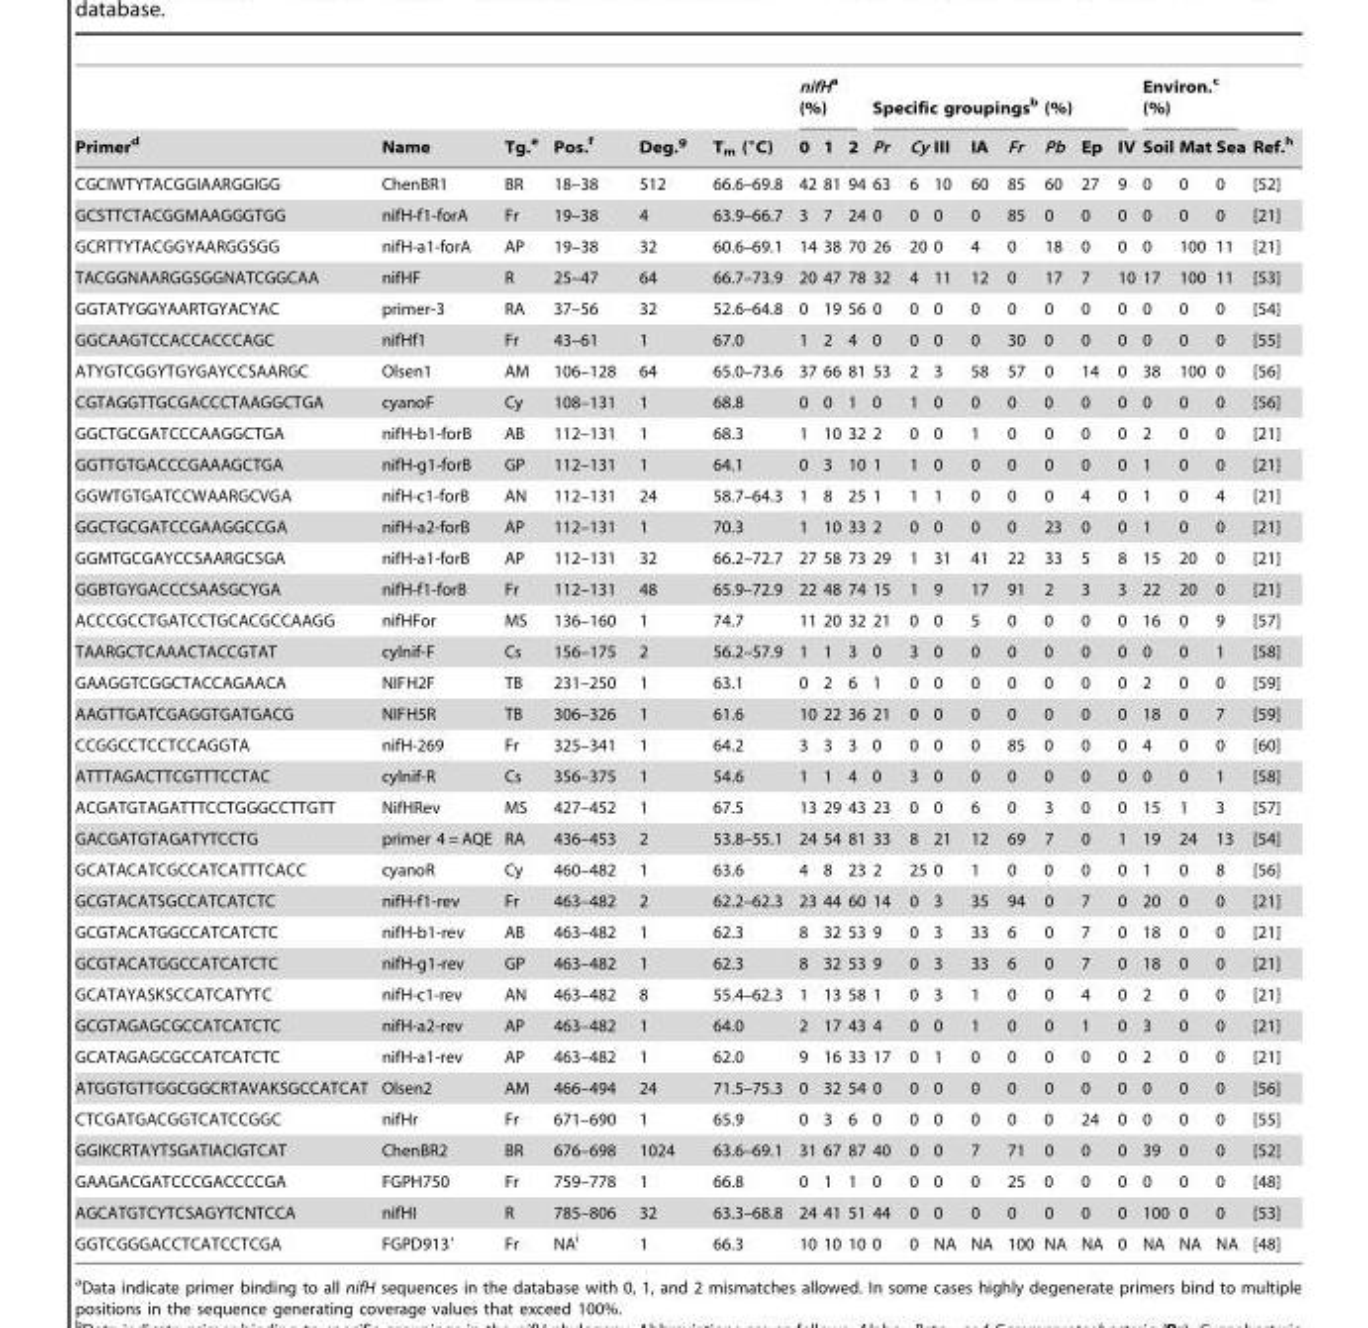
<table><thead><tr><td rowspan="2">Primer<sup>d</sup></td><td rowspan="2">Name</td><td rowspan="2">Tg.<sup>e</sup></td><td rowspan="2">Pos.<sup>f</sup></td><td rowspan="2">Deg.<sup>g</sup></td><td rowspan="2">T<sub>m</sub> (°C)</td><td colspan="3">nifHa (%)</td><td colspan="8">Specific groupings<sup>b</sup> (%)</td><td colspan="3">Environ.<sup>c</sup> (%)</td><td rowspan="2">Ref.<sup>h</sup></td></tr><tr><td>0</td><td>1</td><td>2</td><td>Pr</td><td>Cy</td><td>III</td><td>IA</td><td>Fr</td><td>Pb</td><td>Ep</td><td>IV</td><td>Soil</td><td>Mat</td><td>Sea</td></tr></thead><tbody><tr><td>CGCIWTYTACGGIAARGGIGG</td><td>ChenBR1</td><td>BR</td><td>18–38</td><td>512</td><td>66.6–69.8</td><td>42</td><td>81</td><td>94</td><td>63</td><td>6</td><td>10</td><td>60</td><td>85</td><td>60</td><td>27</td><td>9</td><td>0</td><td>0</td><td>0</td><td>[52]</td></tr><tr><td>GCSTTCTACGGMAAGGGTGG</td><td>nifH-f1-forA</td><td>Fr</td><td>19–38</td><td>4</td><td>63.9–66.7</td><td>3</td><td>7</td><td>24</td><td>0</td><td>0</td><td>0</td><td>0</td><td>85</td><td>0</td><td>0</td><td>0</td><td>0</td><td>0</td><td>0</td><td>[21]</td></tr><tr><td>GCRTTYTACGGYAARGGSGG</td><td>nifH-a1-forA</td><td>AP</td><td>19–38</td><td>32</td><td>60.6–69.1</td><td>14</td><td>38</td><td>70</td><td>26</td><td>20</td><td>0</td><td>4</td><td>0</td><td>18</td><td>0</td><td>0</td><td>0</td><td>100</td><td>11</td><td>[21]</td></tr><tr><td>TACGGNAARGGSGGNATCGGCAA</td><td>nifHF</td><td>R</td><td>25–47</td><td>64</td><td>66.7–73.9</td><td>20</td><td>47</td><td>78</td><td>32</td><td>4</td><td>11</td><td>12</td><td>0</td><td>17</td><td>7</td><td>10</td><td>17</td><td>100</td><td>11</td><td>[53]</td></tr><tr><td>GGTATYGGYAARTGYACYAC</td><td>primer-3</td><td>RA</td><td>37–56</td><td>32</td><td>52.6–64.8</td><td>0</td><td>19</td><td>56</td><td>0</td><td>0</td><td>0</td><td>0</td><td>0</td><td>0</td><td>0</td><td>0</td><td>0</td><td>0</td><td>0</td><td>[54]</td></tr><tr><td>GGCAAGTCCACCACCCAGC</td><td>nifHf1</td><td>Fr</td><td>43–61</td><td>1</td><td>67.0</td><td>1</td><td>2</td><td>4</td><td>0</td><td>0</td><td>0</td><td>0</td><td>30</td><td>0</td><td>0</td><td>0</td><td>0</td><td>0</td><td>0</td><td>[55]</td></tr><tr><td>ATYGTCGGYTGYGAYCCSAARGC</td><td>Olsen1</td><td>AM</td><td>106–128</td><td>64</td><td>65.0–73.6</td><td>37</td><td>66</td><td>81</td><td>53</td><td>2</td><td>3</td><td>58</td><td>57</td><td>0</td><td>14</td><td>0</td><td>38</td><td>100</td><td>0</td><td>[56]</td></tr><tr><td>CGTAGGTTGCGACCCTAAGGCTGA</td><td>cyanoF</td><td>Cy</td><td>108–131</td><td>1</td><td>68.8</td><td>0</td><td>0</td><td>1</td><td>0</td><td>1</td><td>0</td><td>0</td><td>0</td><td>0</td><td>0</td><td>0</td><td>0</td><td>0</td><td>0</td><td>[56]</td></tr><tr><td>GGCTGCGATCCCAAGGCTGA</td><td>nifH-b1-forB</td><td>AB</td><td>112–131</td><td>1</td><td>68.3</td><td>1</td><td>10</td><td>32</td><td>2</td><td>0</td><td>0</td><td>1</td><td>0</td><td>0</td><td>0</td><td>0</td><td>2</td><td>0</td><td>0</td><td>[21]</td></tr><tr><td>GGTTGTGACCCGAAAGCTGA</td><td>nifH-g1-forB</td><td>GP</td><td>112–131</td><td>1</td><td>64.1</td><td>0</td><td>3</td><td>10</td><td>1</td><td>1</td><td>0</td><td>0</td><td>0</td><td>0</td><td>0</td><td>0</td><td>1</td><td>0</td><td>0</td><td>[21]</td></tr><tr><td>GGWTGTGATCCWAARGCVGA</td><td>nifH-c1-forB</td><td>AN</td><td>112–131</td><td>24</td><td>58.7–64.3</td><td>1</td><td>8</td><td>25</td><td>1</td><td>1</td><td>1</td><td>0</td><td>0</td><td>0</td><td>4</td><td>0</td><td>1</td><td>0</td><td>4</td><td>[21]</td></tr><tr><td>GGCTGCGATCCGAAGGCCGA</td><td>nifH-a2-forB</td><td>AP</td><td>112–131</td><td>1</td><td>70.3</td><td>1</td><td>10</td><td>33</td><td>2</td><td>0</td><td>0</td><td>0</td><td>0</td><td>23</td><td>0</td><td>0</td><td>1</td><td>0</td><td>0</td><td>[21]</td></tr><tr><td>GGMTGCGAYCCSAARGCSGA</td><td>nifH-a1-forB</td><td>AP</td><td>112–131</td><td>32</td><td>66.2–72.7</td><td>27</td><td>58</td><td>73</td><td>29</td><td>1</td><td>31</td><td>41</td><td>22</td><td>33</td><td>5</td><td>8</td><td>15</td><td>20</td><td>0</td><td>[21]</td></tr><tr><td>GGBTGYGACCCSAASGCYGA</td><td>nifH-f1-forB</td><td>Fr</td><td>112–131</td><td>48</td><td>65.9–72.9</td><td>22</td><td>48</td><td>74</td><td>15</td><td>1</td><td>9</td><td>17</td><td>91</td><td>2</td><td>3</td><td>3</td><td>22</td><td>20</td><td>0</td><td>[21]</td></tr><tr><td>ACCCGCCTGATCCTGCACGCCAAGG</td><td>nifHFor</td><td>MS</td><td>136–160</td><td>1</td><td>74.7</td><td>11</td><td>20</td><td>32</td><td>21</td><td>0</td><td>0</td><td>5</td><td>0</td><td>0</td><td>0</td><td>0</td><td>16</td><td>0</td><td>9</td><td>[57]</td></tr><tr><td>TAARGCTCAAACTACCGTAT</td><td>cylnif-F</td><td>Cs</td><td>156–175</td><td>2</td><td>56.2–57.9</td><td>1</td><td>1</td><td>3</td><td>0</td><td>3</td><td>0</td><td>0</td><td>0</td><td>0</td><td>0</td><td>0</td><td>0</td><td>0</td><td>1</td><td>[58]</td></tr><tr><td>GAAGGTCGGCTACCAGAACA</td><td>NIFH2F</td><td>TB</td><td>231–250</td><td>1</td><td>63.1</td><td>0</td><td>2</td><td>6</td><td>1</td><td>0</td><td>0</td><td>0</td><td>0</td><td>0</td><td>0</td><td>0</td><td>2</td><td>0</td><td>0</td><td>[59]</td></tr><tr><td>AAGTTGATCGAGGTGATGACG</td><td>NIFH5R</td><td>TB</td><td>306–326</td><td>1</td><td>61.6</td><td>10</td><td>22</td><td>36</td><td>21</td><td>0</td><td>0</td><td>0</td><td>0</td><td>0</td><td>0</td><td>0</td><td>18</td><td>0</td><td>7</td><td>[59]</td></tr><tr><td>CCGGCCTCCTCCAGGTA</td><td>nifH-269</td><td>Fr</td><td>325–341</td><td>1</td><td>64.2</td><td>3</td><td>3</td><td>3</td><td>0</td><td>0</td><td>0</td><td>0</td><td>85</td><td>0</td><td>0</td><td>0</td><td>4</td><td>0</td><td>0</td><td>[60]</td></tr><tr><td>ATTTAGACTTCGTTTCCTAC</td><td>cylnif-R</td><td>Cs</td><td>356–375</td><td>1</td><td>54.6</td><td>1</td><td>1</td><td>4</td><td>0</td><td>3</td><td>0</td><td>0</td><td>0</td><td>0</td><td>0</td><td>0</td><td>0</td><td>0</td><td>1</td><td>[58]</td></tr><tr><td>ACGATGTAGATTTCCTGGGCCTTGTT</td><td>NifHRev</td><td>MS</td><td>427–452</td><td>1</td><td>67.5</td><td>13</td><td>29</td><td>43</td><td>23</td><td>0</td><td>0</td><td>6</td><td>0</td><td>3</td><td>0</td><td>0</td><td>15</td><td>1</td><td>3</td><td>[57]</td></tr><tr><td>GACGATGTAGATYTCCTG</td><td>primer 4 = AQE</td><td>RA</td><td>436–453</td><td>2</td><td>53.8–55.1</td><td>24</td><td>54</td><td>81</td><td>33</td><td>8</td><td>21</td><td>12</td><td>69</td><td>7</td><td>0</td><td>1</td><td>19</td><td>24</td><td>13</td><td>[54]</td></tr><tr><td>GCATACATCGCCATCATTTCACC</td><td>cyanoR</td><td>Cy</td><td>460–482</td><td>1</td><td>63.6</td><td>4</td><td>8</td><td>23</td><td>2</td><td>25</td><td>0</td><td>1</td><td>0</td><td>0</td><td>0</td><td>0</td><td>1</td><td>0</td><td>8</td><td>[56]</td></tr><tr><td>GCGTACATSGCCATCATCTC</td><td>nifH-f1-rev</td><td>Fr</td><td>463–482</td><td>2</td><td>62.2–62.3</td><td>23</td><td>44</td><td>60</td><td>14</td><td>0</td><td>3</td><td>35</td><td>94</td><td>0</td><td>7</td><td>0</td><td>20</td><td>0</td><td>0</td><td>[21]</td></tr><tr><td>GCGTACATGGCCATCATCTC</td><td>nifH-b1-rev</td><td>AB</td><td>463–482</td><td>1</td><td>62.3</td><td>8</td><td>32</td><td>53</td><td>9</td><td>0</td><td>3</td><td>33</td><td>6</td><td>0</td><td>7</td><td>0</td><td>18</td><td>0</td><td>0</td><td>[21]</td></tr><tr><td>GCGTACATGGCCATCATCTC</td><td>nifH-g1-rev</td><td>GP</td><td>463–482</td><td>1</td><td>62.3</td><td>8</td><td>32</td><td>53</td><td>9</td><td>0</td><td>3</td><td>33</td><td>6</td><td>0</td><td>7</td><td>0</td><td>18</td><td>0</td><td>0</td><td>[21]</td></tr><tr><td>GCATAYASKSCCATCATYTC</td><td>nifH-c1-rev</td><td>AN</td><td>463–482</td><td>8</td><td>55.4–62.3</td><td>1</td><td>13</td><td>58</td><td>1</td><td>0</td><td>3</td><td>1</td><td>0</td><td>0</td><td>4</td><td>0</td><td>2</td><td>0</td><td>0</td><td>[21]</td></tr><tr><td>GCGTAGAGCGCCATCATCTC</td><td>nifH-a2-rev</td><td>AP</td><td>463–482</td><td>1</td><td>64.0</td><td>2</td><td>17</td><td>43</td><td>4</td><td>0</td><td>0</td><td>1</td><td>0</td><td>0</td><td>1</td><td>0</td><td>3</td><td>0</td><td>0</td><td>[21]</td></tr><tr><td>GCATAGAGCGCCATCATCTC</td><td>nifH-a1-rev</td><td>AP</td><td>463–482</td><td>1</td><td>62.0</td><td>9</td><td>16</td><td>33</td><td>17</td><td>0</td><td>1</td><td>0</td><td>0</td><td>0</td><td>0</td><td>0</td><td>2</td><td>0</td><td>0</td><td>[21]</td></tr><tr><td>ATGGTGTTGGCGGCRTAVAKSGCCATCAT</td><td>Olsen2</td><td>AM</td><td>466–494</td><td>24</td><td>71.5–75.3</td><td>0</td><td>32</td><td>54</td><td>0</td><td>0</td><td>0</td><td>0</td><td>0</td><td>0</td><td>0</td><td>0</td><td>0</td><td>0</td><td>0</td><td>[56]</td></tr><tr><td>CTCGATGACGGTCATCCGGC</td><td>nifHr</td><td>Fr</td><td>671–690</td><td>1</td><td>65.9</td><td>0</td><td>3</td><td>6</td><td>0</td><td>0</td><td>0</td><td>0</td><td>0</td><td>0</td><td>24</td><td>0</td><td>0</td><td>0</td><td>0</td><td>[55]</td></tr><tr><td>GGIKCRTAYTSGATIACIGTCAT</td><td>ChenBR2</td><td>BR</td><td>676–698</td><td>1024</td><td>63.6–69.1</td><td>31</td><td>67</td><td>87</td><td>40</td><td>0</td><td>0</td><td>7</td><td>71</td><td>0</td><td>0</td><td>0</td><td>39</td><td>0</td><td>0</td><td>[52]</td></tr><tr><td>GAAGACGATCCCGACCCCGA</td><td>FGPH750</td><td>Fr</td><td>759–778</td><td>1</td><td>66.8</td><td>0</td><td>1</td><td>1</td><td>0</td><td>0</td><td>0</td><td>0</td><td>25</td><td>0</td><td>0</td><td>0</td><td>0</td><td>0</td><td>0</td><td>[48]</td></tr><tr><td>AGCATGTCYTCSAGYTCNTCCA</td><td>nifHI</td><td>R</td><td>785–806</td><td>32</td><td>63.3–68.8</td><td>24</td><td>41</td><td>51</td><td>44</td><td>0</td><td>0</td><td>0</td><td>0</td><td>0</td><td>0</td><td>0</td><td>100</td><td>0</td><td>0</td><td>[53]</td></tr><tr><td>GGTCGGGACCTCATCCTCGA</td><td>FGPD913′</td><td>Fr</td><td>NA<sup>i</sup></td><td>1</td><td>66.3</td><td>10</td><td>10</td><td>10</td><td>0</td><td>0</td><td>NA</td><td>NA</td><td>100</td><td>NA</td><td>NA</td><td>0</td><td>NA</td><td>NA</td><td>NA</td><td>[48]</td></tr></tbody></table>